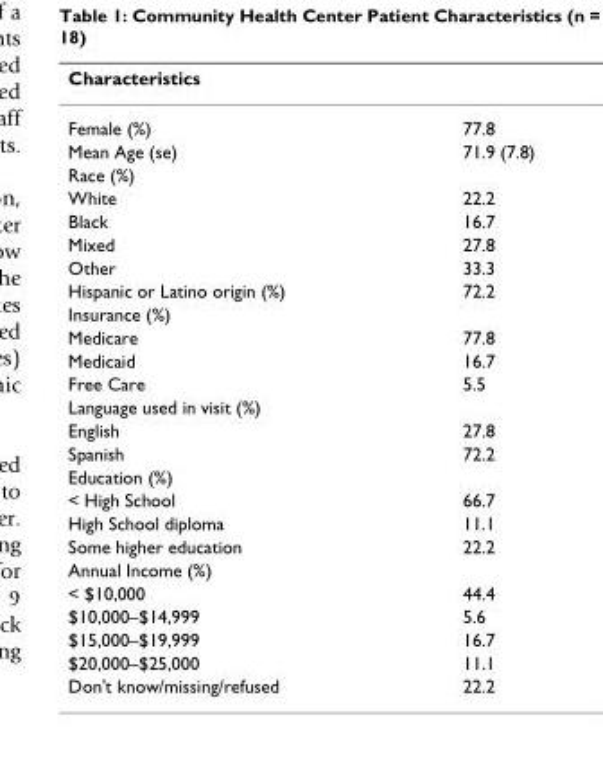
<table><thead><tr><td>Characteristics</td><td></td></tr></thead><tbody><tr><td>Female (%)</td><td>77.8</td></tr><tr><td>Mean Age (se)</td><td>71.9 (7.8)</td></tr><tr><td colspan="2">Race (%)</td></tr><tr><td>White</td><td>22.2</td></tr><tr><td>Black</td><td>16.7</td></tr><tr><td>Mixed</td><td>27.8</td></tr><tr><td>Other</td><td>33.3</td></tr><tr><td>Hispanic or Latino origin (%)</td><td>72.2</td></tr><tr><td colspan="2">Insurance (%)</td></tr><tr><td>Medicare</td><td>77.8</td></tr><tr><td>Medicaid</td><td>16.7</td></tr><tr><td>Free Care</td><td>5.5</td></tr><tr><td colspan="2">Language used in visit (%)</td></tr><tr><td>English</td><td>27.8</td></tr><tr><td>Spanish</td><td>72.2</td></tr><tr><td colspan="2">Education (%)</td></tr><tr><td>&lt; High School</td><td>66.7</td></tr><tr><td>High School diploma</td><td>11.1</td></tr><tr><td>Some higher education</td><td>22.2</td></tr><tr><td colspan="2">Annual Income (%)</td></tr><tr><td>&lt; $10,000</td><td>44.4</td></tr><tr><td>$10,000–$14,999</td><td>5.6</td></tr><tr><td>$15,000–$19,999</td><td>16.7</td></tr><tr><td>$20,000–$25,000</td><td>11.1</td></tr><tr><td>Don&#x27;t know/missing/refused</td><td>22.2</td></tr></tbody></table>